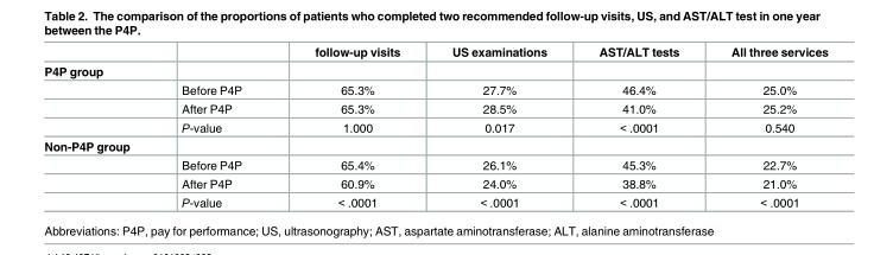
<table><thead><tr><td></td><td></td><td>follow-up visits</td><td>US examinations</td><td>AST/ALT tests</td><td>All three services</td></tr></thead><tbody><tr><td colspan="6">P4P group</td></tr><tr><td></td><td>Before P4P</td><td>65.3%</td><td>27.7%</td><td>46.4%</td><td>25.0%</td></tr><tr><td></td><td>After P4P</td><td>65.3%</td><td>28.5%</td><td>41.0%</td><td>25.2%</td></tr><tr><td></td><td>P-value</td><td>1.000</td><td>0.017</td><td>&lt; .0001</td><td>0.540</td></tr><tr><td colspan="6">Non-P4P group</td></tr><tr><td></td><td>Before P4P</td><td>65.4%</td><td>26.1%</td><td>45.3%</td><td>22.7%</td></tr><tr><td></td><td>After P4P</td><td>60.9%</td><td>24.0%</td><td>38.8%</td><td>21.0%</td></tr><tr><td></td><td>P-value</td><td>&lt; .0001</td><td>&lt; .0001</td><td>&lt; .0001</td><td>&lt; .0001</td></tr></tbody></table>